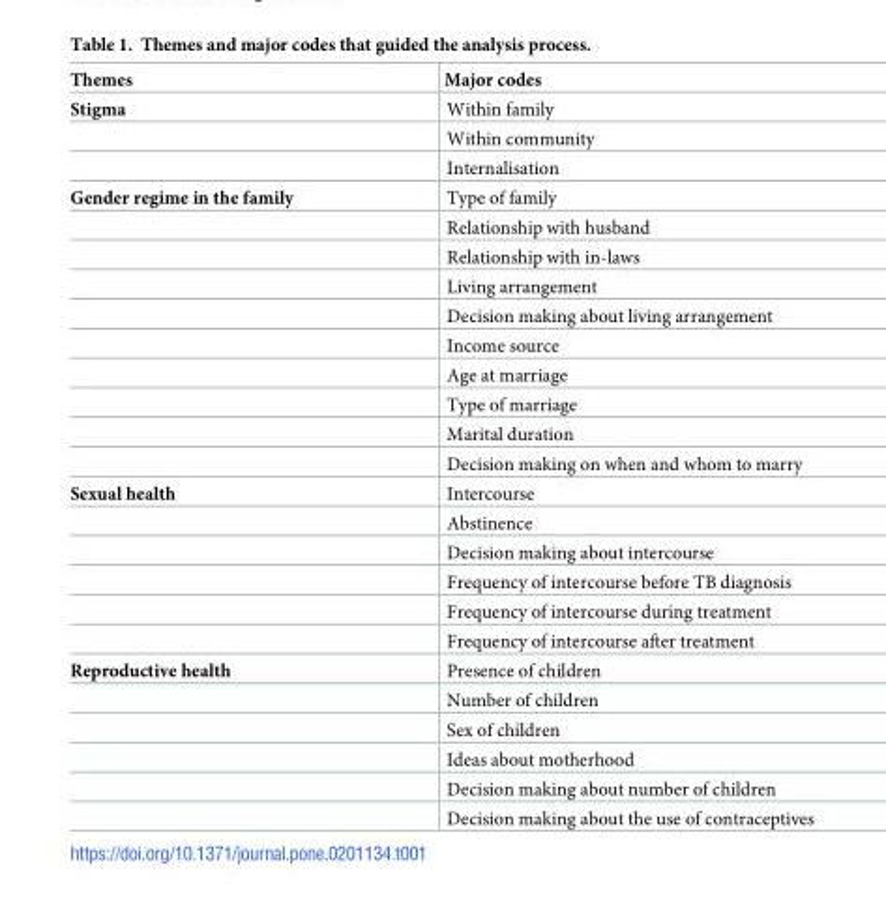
<table><thead><tr><td>Themes</td><td>Major codes</td></tr></thead><tbody><tr><td rowspan="3">Stigma</td><td>Within family</td></tr><tr><td>Within community</td></tr><tr><td>Internalisation</td></tr><tr><td rowspan="10">Gender regime in the family</td><td>Type of family</td></tr><tr><td>Relationship with husband</td></tr><tr><td>Relationship with in-laws</td></tr><tr><td>Living arrangement</td></tr><tr><td>Decision making about living arrangement</td></tr><tr><td>Income source</td></tr><tr><td>Age at marriage</td></tr><tr><td>Type of marriage</td></tr><tr><td>Marital duration</td></tr><tr><td>Decision making on when and whom to marry</td></tr><tr><td rowspan="6">Sexual health</td><td>Intercourse</td></tr><tr><td>Abstinence</td></tr><tr><td>Decision making about intercourse</td></tr><tr><td>Frequency of intercourse before TB diagnosis</td></tr><tr><td>Frequency of intercourse during treatment</td></tr><tr><td>Frequency of intercourse after treatment</td></tr><tr><td rowspan="6">Reproductive health</td><td>Presence of children</td></tr><tr><td>Number of children</td></tr><tr><td>Sex of children</td></tr><tr><td>Ideas about motherhood</td></tr><tr><td>Decision making about number of children</td></tr><tr><td>Decision making about the use of contraceptives</td></tr></tbody></table>